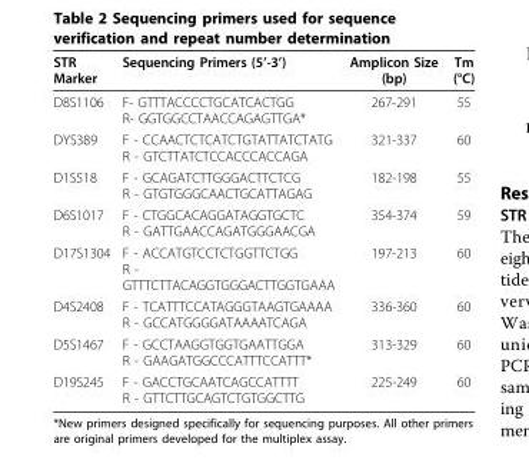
<table><thead><tr><td>STR Marker</td><td>Sequencing Primers (5’-3’)</td><td>Amplicon Size (bp)</td><td>Tm (°C)</td></tr></thead><tbody><tr><td>D8S1106</td><td>F- GTTTACCCCTGCATCACTGG R- GGTGGCCTAACCAGAGTTGA*</td><td>267-291</td><td>55</td></tr><tr><td>DYS389</td><td>F - CCAACTCTCATCTGTATTATCTATG R - GTCTTATCTCCACCCACCAGA</td><td>321-337</td><td>60</td></tr><tr><td>D1S518</td><td>F - GCAGATCTTGGGACTTCTCG R - GTGTGGGCAACTGCATTAGAG</td><td>182-198</td><td>55</td></tr><tr><td>D6S1017</td><td>F - CTGGCACAGGATAGGTGCTC R - GATTGAACCAGATGGGAACGA</td><td>354-374</td><td>59</td></tr><tr><td>D17S1304</td><td>F - ACCATGTCCTCTGGTTCTGG R - GTTTCTTACAGGTGGGACTTGGTGAAA</td><td>197-213</td><td>60</td></tr><tr><td>D4S2408</td><td>F - TCATTTCCATAGGGTAAGTGAAAA R - GCCATGGGGATAAAATCAGA</td><td>336-360</td><td>60</td></tr><tr><td>D5S1467</td><td>F - GCCTAAGGTGGTGAATTGGA R - GAAGATGGCCCATTTCCATTT*</td><td>313-329</td><td>60</td></tr><tr><td>D19S245</td><td>F - GACCTGCAATCAGCCATTTT R - GTTCTTGCAGTCTGTGGCTTG</td><td>225-249</td><td>60</td></tr></tbody></table>